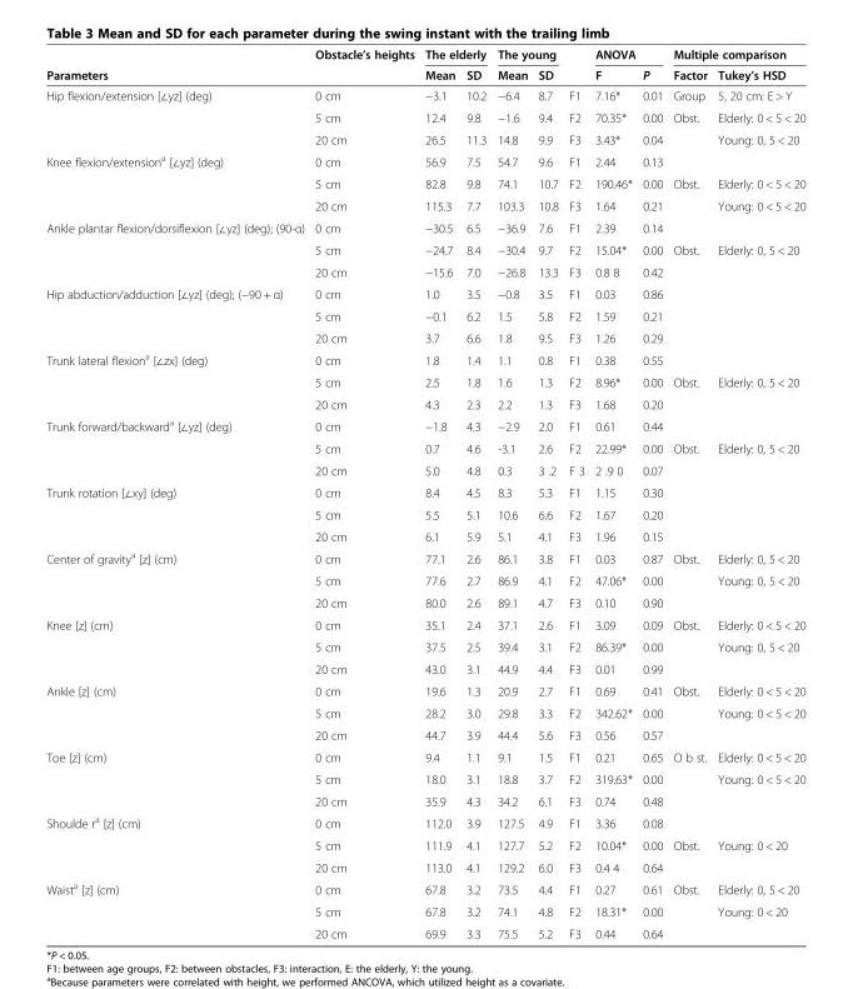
<table><thead><tr><td rowspan="2">Parameters</td><td rowspan="2">Obstacle’s heights</td><td colspan="2">The elderly</td><td colspan="2">The young</td><td rowspan="2"></td><td colspan="2">ANOVA</td><td colspan="2">Multiple comparison</td></tr><tr><td>Mean</td><td>SD</td><td>Mean</td><td>SD</td><td>F</td><td>P</td><td>Factor</td><td>Tukey’s HSD</td></tr></thead><tbody><tr><td rowspan="3">Hip flexion/extension [∠yz] (deg)</td><td>0 cm</td><td>−3.1</td><td>10.2</td><td>−6.4</td><td>8.7</td><td>F1</td><td>7.16*</td><td>0.01</td><td>Group</td><td>5, 20 cm: E &gt; Y</td></tr><tr><td>5 cm</td><td>12.4</td><td>9.8</td><td>−1.6</td><td>9.4</td><td>F2</td><td>70.35*</td><td>0.00</td><td>Obst.</td><td>Elderly: 0 &lt; 5 &lt; 20</td></tr><tr><td>20 cm</td><td>26.5</td><td>11.3</td><td>14.8</td><td>9.9</td><td>F3</td><td>3.43*</td><td>0.04</td><td></td><td>Young: 0, 5 &lt; 20</td></tr><tr><td rowspan="3">Knee flexion/extension<sup>a</sup> [∠yz] (deg)</td><td>0 cm</td><td>56.9</td><td>7.5</td><td>54.7</td><td>9.6</td><td>F1</td><td>2.44</td><td>0.13</td><td></td><td></td></tr><tr><td>5 cm</td><td>82.8</td><td>9.8</td><td>74.1</td><td>10.7</td><td>F2</td><td>190.46*</td><td>0.00</td><td>Obst.</td><td>Elderly: 0 &lt; 5 &lt; 20</td></tr><tr><td>20 cm</td><td>115.3</td><td>7.7</td><td>103.3</td><td>10.8</td><td>F3</td><td>1.64</td><td>0.21</td><td></td><td>Young: 0 &lt; 5 &lt; 20</td></tr><tr><td rowspan="3">Ankle plantar flexion/dorsiflexion [∠yz] (deg); (90-α)</td><td>0 cm</td><td>−30.5</td><td>6.5</td><td>−36.9</td><td>7.6</td><td>F1</td><td>2.39</td><td>0.14</td><td></td><td></td></tr><tr><td>5 cm</td><td>−24.7</td><td>8.4</td><td>−30.4</td><td>9.7</td><td>F2</td><td>15.04*</td><td>0.00</td><td>Obst.</td><td>Elderly: 0, 5 &lt; 20</td></tr><tr><td>20 cm</td><td>−15.6</td><td>7.0</td><td>−26.8</td><td>13.3</td><td>F3</td><td>0.8 8</td><td>0.42</td><td></td><td></td></tr><tr><td rowspan="3">Hip abduction/adduction [∠yz] (deg); (−90 + α)</td><td>0 cm</td><td>1.0</td><td>3.5</td><td>−0.8</td><td>3.5</td><td>F1</td><td>0.03</td><td>0.86</td><td></td><td></td></tr><tr><td>5 cm</td><td>−0.1</td><td>6.2</td><td>1.5</td><td>5.8</td><td>F2</td><td>1.59</td><td>0.21</td><td></td><td></td></tr><tr><td>20 cm</td><td>3.7</td><td>6.6</td><td>1.8</td><td>9.5</td><td>F3</td><td>1.26</td><td>0.29</td><td></td><td></td></tr><tr><td rowspan="3">Trunk lateral flexion<sup>a</sup> [∠zx] (deg)</td><td>0 cm</td><td>1.8</td><td>1.4</td><td>1.1</td><td>0.8</td><td>F1</td><td>0.38</td><td>0.55</td><td></td><td></td></tr><tr><td>5 cm</td><td>2.5</td><td>1.8</td><td>1.6</td><td>1.3</td><td>F2</td><td>8.96*</td><td>0.00</td><td>Obst.</td><td>Elderly: 0, 5 &lt; 20</td></tr><tr><td>20 cm</td><td>4.3</td><td>2.3</td><td>2.2</td><td>1.3</td><td>F3</td><td>1.68</td><td>0.20</td><td></td><td></td></tr><tr><td rowspan="3">Trunk forward/backward<sup>a</sup> [∠yz] (deg)</td><td>0 cm</td><td>−1.8</td><td>4.3</td><td>−2.9</td><td>2.0</td><td>F1</td><td>0.61</td><td>0.44</td><td></td><td></td></tr><tr><td>5 cm</td><td>0.7</td><td>4.6</td><td>-3.1</td><td>2.6</td><td>F2</td><td>22.99*</td><td>0.00</td><td>Obst.</td><td>Elderly: 0, 5 &lt; 20</td></tr><tr><td>20 cm</td><td>5.0</td><td>4.8</td><td>0.3</td><td>3 .2</td><td>F 3</td><td>2 .9 0</td><td>0.07</td><td></td><td></td></tr><tr><td rowspan="3">Trunk rotation [∠xy] (deg)</td><td>0 cm</td><td>8.4</td><td>4.5</td><td>8.3</td><td>5.3</td><td>F1</td><td>1.15</td><td>0.30</td><td></td><td></td></tr><tr><td>5 cm</td><td>5.5</td><td>5.1</td><td>10.6</td><td>6.6</td><td>F2</td><td>1.67</td><td>0.20</td><td></td><td></td></tr><tr><td>20 cm</td><td>6.1</td><td>5.9</td><td>5.1</td><td>4.1</td><td>F3</td><td>1.96</td><td>0.15</td><td></td><td></td></tr><tr><td rowspan="3">Center of gravity<sup>a</sup> [z] (cm)</td><td>0 cm</td><td>77.1</td><td>2.6</td><td>86.1</td><td>3.8</td><td>F1</td><td>0.03</td><td>0.87</td><td>Obst.</td><td>Elderly: 0, 5 &lt; 20</td></tr><tr><td>5 cm</td><td>77.6</td><td>2.7</td><td>86.9</td><td>4.1</td><td>F2</td><td>47.06*</td><td>0.00</td><td></td><td>Young: 0, 5 &lt; 20</td></tr><tr><td>20 cm</td><td>80.0</td><td>2.6</td><td>89.1</td><td>4.7</td><td>F3</td><td>0.10</td><td>0.90</td><td></td><td></td></tr><tr><td rowspan="3">Knee [z] (cm)</td><td>0 cm</td><td>35.1</td><td>2.4</td><td>37.1</td><td>2.6</td><td>F1</td><td>3.09</td><td>0.09</td><td>Obst.</td><td>Elderly: 0 &lt; 5 &lt; 20</td></tr><tr><td>5 cm</td><td>37.5</td><td>2.5</td><td>39.4</td><td>3.1</td><td>F2</td><td>86.39*</td><td>0.00</td><td></td><td>Young: 0, 5 &lt; 20</td></tr><tr><td>20 cm</td><td>43.0</td><td>3.1</td><td>44.9</td><td>4.4</td><td>F3</td><td>0.01</td><td>0.99</td><td></td><td></td></tr><tr><td rowspan="3">Ankle [z] (cm)</td><td>0 cm</td><td>19.6</td><td>1.3</td><td>20.9</td><td>2.7</td><td>F1</td><td>0.69</td><td>0.41</td><td>Obst.</td><td>Elderly: 0 &lt; 5 &lt; 20</td></tr><tr><td>5 cm</td><td>28.2</td><td>3.0</td><td>29.8</td><td>3.3</td><td>F2</td><td>342.62*</td><td>0.00</td><td></td><td>Young: 0 &lt; 5 &lt; 20</td></tr><tr><td>20 cm</td><td>44.7</td><td>3.9</td><td>44.4</td><td>5.6</td><td>F3</td><td>0.56</td><td>0.57</td><td></td><td></td></tr><tr><td rowspan="3">Toe [z] (cm)</td><td>0 cm</td><td>9.4</td><td>1.1</td><td>9.1</td><td>1.5</td><td>F1</td><td>0.21</td><td>0.65</td><td>O b st.</td><td>Elderly: 0 &lt; 5 &lt; 20</td></tr><tr><td>5 cm</td><td>18.0</td><td>3.1</td><td>18.8</td><td>3.7</td><td>F2</td><td>319.63*</td><td>0.00</td><td></td><td>Young: 0 &lt; 5 &lt; 20</td></tr><tr><td>20 cm</td><td>35.9</td><td>4.3</td><td>34.2</td><td>6.1</td><td>F3</td><td>0.74</td><td>0.48</td><td></td><td></td></tr><tr><td rowspan="3">Shoulde r<sup>a</sup> [z] (cm)</td><td>0 cm</td><td>112.0</td><td>3.9</td><td>127.5</td><td>4.9</td><td>F1</td><td>3.36</td><td>0.08</td><td></td><td></td></tr><tr><td>5 cm</td><td>111.9</td><td>4.1</td><td>127.7</td><td>5.2</td><td>F2</td><td>10.04*</td><td>0.00</td><td>Obst.</td><td>Young: 0 &lt; 20</td></tr><tr><td>20 cm</td><td>113.0</td><td>4.1</td><td>129.2</td><td>6.0</td><td>F3</td><td>0.4 4</td><td>0.64</td><td></td><td></td></tr><tr><td rowspan="3">Waist<sup>a</sup> [z] (cm)</td><td>0 cm</td><td>67.8</td><td>3.2</td><td>73.5</td><td>4.4</td><td>F1</td><td>0.27</td><td>0.61</td><td>Obst.</td><td>Elderly: 0, 5 &lt; 20</td></tr><tr><td>5 cm</td><td>67.8</td><td>3.2</td><td>74.1</td><td>4.8</td><td>F2</td><td>18.31*</td><td>0.00</td><td></td><td>Young: 0 &lt; 20</td></tr><tr><td>20 cm</td><td>69.9</td><td>3.3</td><td>75.5</td><td>5.2</td><td>F3</td><td>0.44</td><td>0.64</td><td></td><td></td></tr></tbody></table>